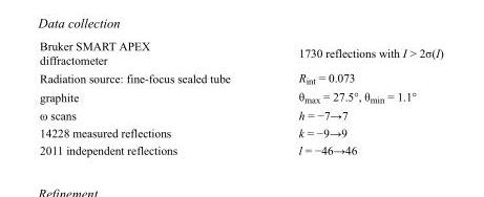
<table><tbody><tr><td>Bruker SMART APEX diffractometer</td><td>1730 reflections with I &gt; 2σ(I)</td></tr><tr><td>Radiation source: fine-focus sealed tube</td><td>R<sub>int</sub> = 0.073</td></tr><tr><td>graphite</td><td>θ<sub>max</sub> = 27.5°, θ<sub>min</sub> = 1.1°</td></tr><tr><td>ω scans</td><td>h = −7→7</td></tr><tr><td>14228 measured reflections</td><td>k = −9→9</td></tr><tr><td>2011 independent reflections</td><td>l = −46→46</td></tr></tbody></table>